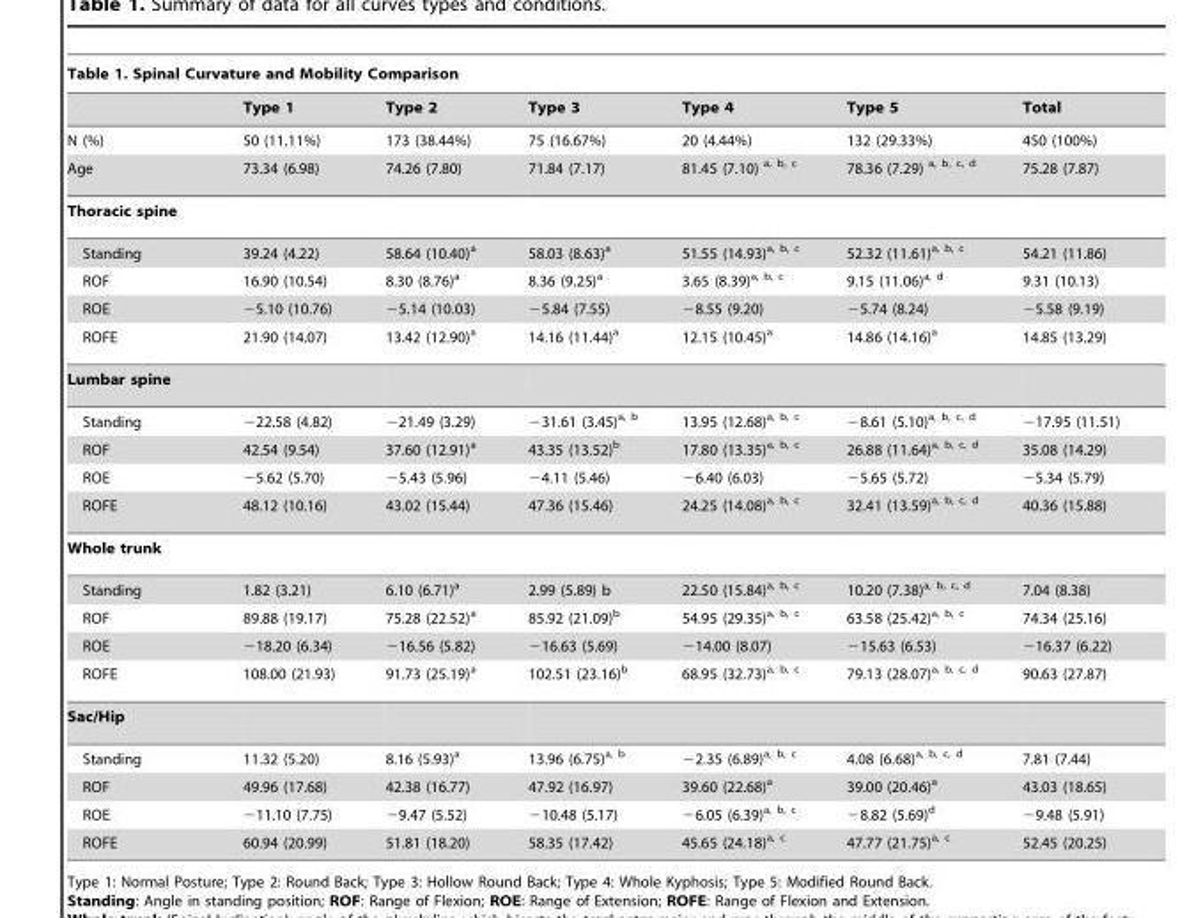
<table><thead><tr><td colspan="7">Table 1. Spinal Curvature and Mobility Comparison</td></tr><tr><td></td><td>Type 1</td><td>Type 2</td><td>Type 3</td><td>Type 4</td><td>Type 5</td><td>Total</td></tr></thead><tbody><tr><td>N (%)</td><td>50 (11.11%)</td><td>173 (38.44%)</td><td>75 (16.67%)</td><td>20 (4.44%)</td><td>132 (29.33%)</td><td>450 (100%)</td></tr><tr><td>Age</td><td>73.34 (6.98)</td><td>74.26 (7.80)</td><td>71.84 (7.17)</td><td>81.45 (7.10) <sup>a, b, c</sup></td><td>78.36 (7.29) <sup>a, b, c, d</sup></td><td>75.28 (7.87)</td></tr><tr><td colspan="7">Thoracic spine</td></tr><tr><td>Standing</td><td>39.24 (4.22)</td><td>58.64 (10.40)<sup>a</sup></td><td>58.03 (8.63)<sup>a</sup></td><td>51.55 (14.93)<sup>a, b, c</sup></td><td>52.32 (11.61)<sup>a, b, c</sup></td><td>54.21 (11.86)</td></tr><tr><td>ROF</td><td>16.90 (10.54)</td><td>8.30 (8.76)<sup>a</sup></td><td>8.36 (9.25)<sup>a</sup></td><td>3.65 (8.39)<sup>a, b, c</sup></td><td>9.15 (11.06)<sup>a, d</sup></td><td>9.31 (10.13)</td></tr><tr><td>ROE</td><td>−5.10 (10.76)</td><td>−5.14 (10.03)</td><td>−5.84 (7.55)</td><td>−8.55 (9.20)</td><td>−5.74 (8.24)</td><td>−5.58 (9.19)</td></tr><tr><td>ROFE</td><td>21.90 (14.07)</td><td>13.42 (12.90)<sup>a</sup></td><td>14.16 (11.44)<sup>a</sup></td><td>12.15 (10.45)<sup>a</sup></td><td>14.86 (14.16)<sup>a</sup></td><td>14.85 (13.29)</td></tr><tr><td colspan="7">Lumbar spine</td></tr><tr><td>Standing</td><td>−22.58 (4.82)</td><td>−21.49 (3.29)</td><td>−31.61 (3.45)<sup>a, b</sup></td><td>13.95 (12.68)<sup>a, b, c</sup></td><td>−8.61 (5.10)<sup>a, b, c, d</sup></td><td>−17.95 (11.51)</td></tr><tr><td>ROF</td><td>42.54 (9.54)</td><td>37.60 (12.91)<sup>a</sup></td><td>43.35 (13.52)<sup>b</sup></td><td>17.80 (13.35)<sup>a, b, c</sup></td><td>26.88 (11.64)<sup>a, b, c, d</sup></td><td>35.08 (14.29)</td></tr><tr><td>ROE</td><td>−5.62 (5.70)</td><td>−5.43 (5.96)</td><td>−4.11 (5.46)</td><td>−6.40 (6.03)</td><td>−5.65 (5.72)</td><td>−5.34 (5.79)</td></tr><tr><td>ROFE</td><td>48.12 (10.16)</td><td>43.02 (15.44)</td><td>47.36 (15.46)</td><td>24.25 (14.08)<sup>a, b, c</sup></td><td>32.41 (13.59)<sup>a, b, c, d</sup></td><td>40.36 (15.88)</td></tr><tr><td colspan="7">Whole trunk</td></tr><tr><td>Standing</td><td>1.82 (3.21)</td><td>6.10 (6.71)<sup>a</sup></td><td>2.99 (5.89) b</td><td>22.50 (15.84)<sup>a, b, c</sup></td><td>10.20 (7.38)<sup>a, b, c, d</sup></td><td>7.04 (8.38)</td></tr><tr><td>ROF</td><td>89.88 (19.17)</td><td>75.28 (22.52)<sup>a</sup></td><td>85.92 (21.09)<sup>b</sup></td><td>54.95 (29.35)<sup>a, b, c</sup></td><td>63.58 (25.42)<sup>a, b, c</sup></td><td>74.34 (25.16)</td></tr><tr><td>ROE</td><td>−18.20 (6.34)</td><td>−16.56 (5.82)</td><td>−16.63 (5.69)</td><td>−14.00 (8.07)</td><td>−15.63 (6.53)</td><td>−16.37 (6.22)</td></tr><tr><td>ROFE</td><td>108.00 (21.93)</td><td>91.73 (25.19)<sup>a</sup></td><td>102.51 (23.16)<sup>b</sup></td><td>68.95 (32.73)<sup>a, b, c</sup></td><td>79.13 (28.07)<sup>a, b, c, d</sup></td><td>90.63 (27.87)</td></tr><tr><td colspan="7">Sac/Hip</td></tr><tr><td>Standing</td><td>11.32 (5.20)</td><td>8.16 (5.93)<sup>a</sup></td><td>13.96 (6.75)<sup>a, b</sup></td><td>−2.35 (6.89)<sup>a, b, c</sup></td><td>4.08 (6.68)<sup>a, b, c, d</sup></td><td>7.81 (7.44)</td></tr><tr><td>ROF</td><td>49.96 (17.68)</td><td>42.38 (16.77)</td><td>47.92 (16.97)</td><td>39.60 (22.68)<sup>a</sup></td><td>39.00 (20.46)<sup>a</sup></td><td>43.03 (18.65)</td></tr><tr><td>ROE</td><td>−11.10 (7.75)</td><td>−9.47 (5.52)</td><td>−10.48 (5.17)</td><td>−6.05 (6.39)<sup>a, b, c</sup></td><td>−8.82 (5.69)<sup>d</sup></td><td>−9.48 (5.91)</td></tr><tr><td>ROFE</td><td>60.94 (20.99)</td><td>51.81 (18.20)</td><td>58.35 (17.42)</td><td>45.65 (24.18)<sup>a, c</sup></td><td>47.77 (21.75)<sup>a, c</sup></td><td>52.45 (20.25)</td></tr></tbody></table>